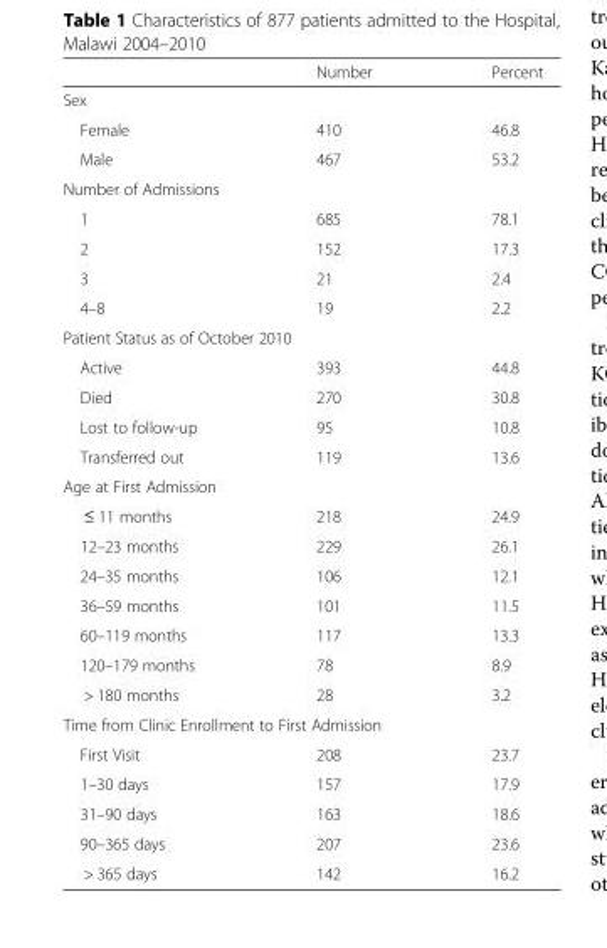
<table><thead><tr><td></td><td>Number</td><td>Percent</td></tr></thead><tbody><tr><td colspan="3">Sex</td></tr><tr><td>Female</td><td>410</td><td>46.8</td></tr><tr><td>Male</td><td>467</td><td>53.2</td></tr><tr><td colspan="3">Number of Admissions</td></tr><tr><td>1</td><td>685</td><td>78.1</td></tr><tr><td>2</td><td>152</td><td>17.3</td></tr><tr><td>3</td><td>21</td><td>2.4</td></tr><tr><td>4–8</td><td>19</td><td>2.2</td></tr><tr><td colspan="3">Patient Status as of October 2010</td></tr><tr><td>Active</td><td>393</td><td>44.8</td></tr><tr><td>Died</td><td>270</td><td>30.8</td></tr><tr><td>Lost to follow-up</td><td>95</td><td>10.8</td></tr><tr><td>Transferred out</td><td>119</td><td>13.6</td></tr><tr><td colspan="3">Age at First Admission</td></tr><tr><td>≤ 11 months</td><td>218</td><td>24.9</td></tr><tr><td>12–23 months</td><td>229</td><td>26.1</td></tr><tr><td>24–35 months</td><td>106</td><td>12.1</td></tr><tr><td>36–59 months</td><td>101</td><td>11.5</td></tr><tr><td>60–119 months</td><td>117</td><td>13.3</td></tr><tr><td>120–179 months</td><td>78</td><td>8.9</td></tr><tr><td>&gt; 180 months</td><td>28</td><td>3.2</td></tr><tr><td colspan="3">Time from Clinic Enrollment to First Admission</td></tr><tr><td>First Visit</td><td>208</td><td>23.7</td></tr><tr><td>1–30 days</td><td>157</td><td>17.9</td></tr><tr><td>31–90 days</td><td>163</td><td>18.6</td></tr><tr><td>90–365 days</td><td>207</td><td>23.6</td></tr><tr><td>&gt; 365 days</td><td>142</td><td>16.2</td></tr></tbody></table>